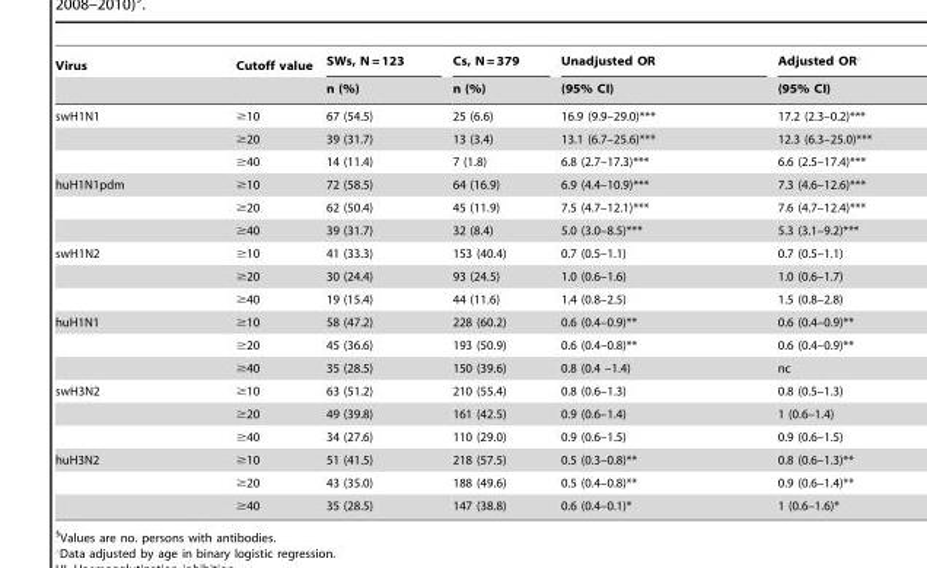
<table><thead><tr><td rowspan="2">Virus</td><td rowspan="2">Cutoff value</td><td rowspan="2">SWs, N = 123 n (%)</td><td rowspan="2">Cs, N = 379 n (%)</td><td rowspan="2">Unadjusted OR (95% CI)</td><td rowspan="2">Adjusted OR‘ (95% CI)</td></tr><tr></tr></thead><tbody><tr><td rowspan="3">swH1N1</td><td>≥10</td><td>67 (54.5)</td><td>25 (6.6)</td><td>16.9 (9.9–29.0)***</td><td>17.2 (2.3–0.2)***</td></tr><tr><td>≥20</td><td>39 (31.7)</td><td>13 (3.4)</td><td>13.1 (6.7–25.6)***</td><td>12.3 (6.3–25.0)***</td></tr><tr><td>≥40</td><td>14 (11.4)</td><td>7 (1.8)</td><td>6.8 (2.7–17.3)***</td><td>6.6 (2.5–17.4)***</td></tr><tr><td rowspan="3">huH1N1pdm</td><td>≥10</td><td>72 (58.5)</td><td>64 (16.9)</td><td>6.9 (4.4–10.9)***</td><td>7.3 (4.6–12.6)***</td></tr><tr><td>≥20</td><td>62 (50.4)</td><td>45 (11.9)</td><td>7.5 (4.7–12.1)***</td><td>7.6 (4.7–12.4)***</td></tr><tr><td>≥40</td><td>39 (31.7)</td><td>32 (8.4)</td><td>5.0 (3.0–8.5)***</td><td>5.3 (3.1–9.2)***</td></tr><tr><td rowspan="3">swH1N2</td><td>≥10</td><td>41 (33.3)</td><td>153 (40.4)</td><td>0.7 (0.5–1.1)</td><td>0.7 (0.5–1.1)</td></tr><tr><td>≥20</td><td>30 (24.4)</td><td>93 (24.5)</td><td>1.0 (0.6–1.6)</td><td>1.0 (0.6–1.7)</td></tr><tr><td>≥40</td><td>19 (15.4)</td><td>44 (11.6)</td><td>1.4 (0.8–2.5)</td><td>1.5 (0.8–2.8)</td></tr><tr><td rowspan="3">huH1N1</td><td>≥10</td><td>58 (47.2)</td><td>228 (60.2)</td><td>0.6 (0.4–0.9)**</td><td>0.6 (0.4–0.9)**</td></tr><tr><td>≥20</td><td>45 (36.6)</td><td>193 (50.9)</td><td>0.6 (0.4–0.8)**</td><td>0.6 (0.4–0.9)**</td></tr><tr><td>≥40</td><td>35 (28.5)</td><td>150 (39.6)</td><td>0.8 (0.4 –1.4)</td><td>nc</td></tr><tr><td rowspan="3">swH3N2</td><td>≥10</td><td>63 (51.2)</td><td>210 (55.4)</td><td>0.8 (0.6–1.3)</td><td>0.8 (0.5–1.3)</td></tr><tr><td>≥20</td><td>49 (39.8)</td><td>161 (42.5)</td><td>0.9 (0.6–1.4)</td><td>1 (0.6–1.4)</td></tr><tr><td>≥40</td><td>34 (27.6)</td><td>110 (29.0)</td><td>0.9 (0.6–1.5)</td><td>0.9 (0.6–1.5)</td></tr><tr><td rowspan="3">huH3N2</td><td>≥10</td><td>51 (41.5)</td><td>218 (57.5)</td><td>0.5 (0.3–0.8)**</td><td>0.8 (0.6–1.3)**</td></tr><tr><td>≥20</td><td>43 (35.0)</td><td>188 (49.6)</td><td>0.5 (0.4–0.8)**</td><td>0.9 (0.6–1.4)**</td></tr><tr><td>≥40</td><td>35 (28.5)</td><td>147 (38.8)</td><td>0.6 (0.4–0.1)*</td><td>1 (0.6–1.6)*</td></tr></tbody></table>